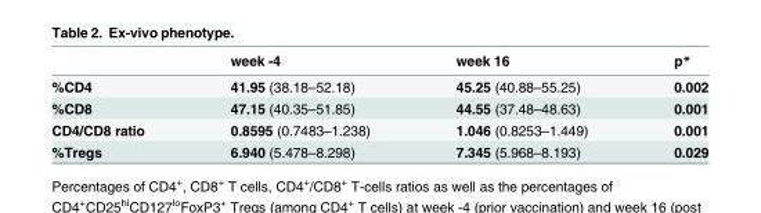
<table><thead><tr><td></td><td>week -4</td><td>week 16</td><td>p*</td></tr></thead><tbody><tr><td>%CD4</td><td>41.95 (38.18–52.18)</td><td>45.25 (40.88–55.25)</td><td>0.002</td></tr><tr><td>%CD8</td><td>47.15 (40.35–51.85)</td><td>44.55 (37.48–48.63)</td><td>0.001</td></tr><tr><td>CD4/CD8 ratio</td><td>0.8595 (0.7483–1.238)</td><td>1.046 (0.8253–1.449)</td><td>0.001</td></tr><tr><td>%Tregs</td><td>6.940 (5.478–8.298)</td><td>7.345 (5.968–8.193)</td><td>0.029</td></tr></tbody></table>